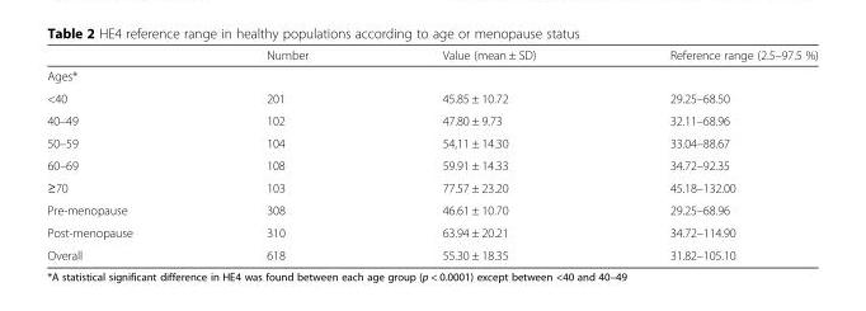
<table><thead><tr><td></td><td>Number</td><td>Value (mean ± SD)</td><td>Reference range (2.5–97.5 %)</td></tr></thead><tbody><tr><td colspan="4">Ages*</td></tr><tr><td>&lt;40</td><td>201</td><td>45.85 ± 10.72</td><td>29.25–68.50</td></tr><tr><td>40–49</td><td>102</td><td>47.80 ± 9.73</td><td>32.11–68.96</td></tr><tr><td>50–59</td><td>104</td><td>54,11 ± 14.30</td><td>33.04–88.67</td></tr><tr><td>60–69</td><td>108</td><td>59.91 ± 14.33</td><td>34.72–92.35</td></tr><tr><td>≥70</td><td>103</td><td>77.57 ± 23.20</td><td>45.18–132.00</td></tr><tr><td>Pre-menopause</td><td>308</td><td>46.61 ± 10.70</td><td>29.25–68.96</td></tr><tr><td>Post-menopause</td><td>310</td><td>63.94 ± 20.21</td><td>34.72–114.90</td></tr><tr><td>Overall</td><td>618</td><td>55.30 ± 18.35</td><td>31.82–105.10</td></tr></tbody></table>